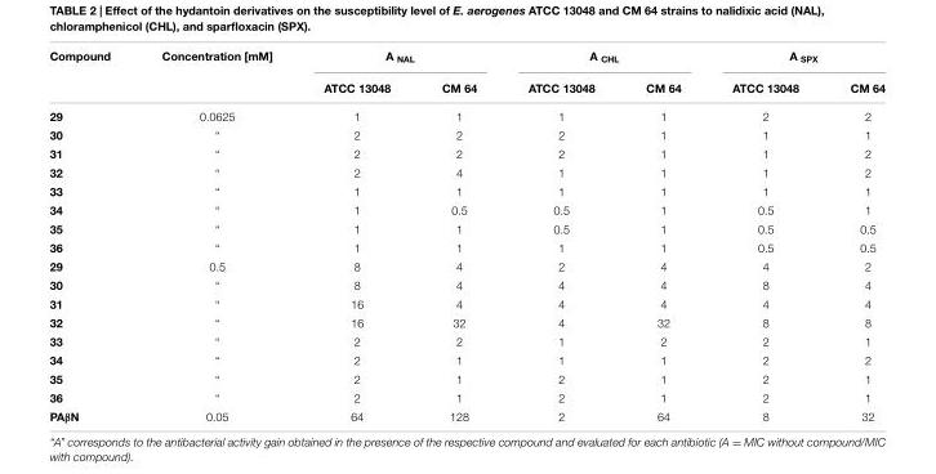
<table><thead><tr><td rowspan="2">Compound</td><td rowspan="2">Concentration [mM]</td><td colspan="2">A <sub>NAL</sub></td><td colspan="2">A <sub>CHL</sub></td><td colspan="2">A <sub>SPX</sub></td></tr><tr><td>ATCC 13048</td><td>CM 64</td><td>ATCC 13048</td><td>CM 64</td><td>ATCC 13048</td><td>CM 64</td></tr></thead><tbody><tr><td>29</td><td>0.0625</td><td>1</td><td>1</td><td>1</td><td>1</td><td>2</td><td>2</td></tr><tr><td>30</td><td>“</td><td>2</td><td>2</td><td>2</td><td>1</td><td>1</td><td>1</td></tr><tr><td>31</td><td>“</td><td>2</td><td>2</td><td>2</td><td>1</td><td>1</td><td>2</td></tr><tr><td>32</td><td>“</td><td>2</td><td>4</td><td>1</td><td>1</td><td>1</td><td>2</td></tr><tr><td>33</td><td>“</td><td>1</td><td>1</td><td>1</td><td>1</td><td>1</td><td>1</td></tr><tr><td>34</td><td>“</td><td>1</td><td>0.5</td><td>0.5</td><td>1</td><td>0.5</td><td>1</td></tr><tr><td>35</td><td>“</td><td>1</td><td>1</td><td>0.5</td><td>1</td><td>0.5</td><td>0.5</td></tr><tr><td>36</td><td>“</td><td>1</td><td>1</td><td>1</td><td>1</td><td>0.5</td><td>0.5</td></tr><tr><td>29</td><td>0.5</td><td>8</td><td>4</td><td>2</td><td>4</td><td>4</td><td>2</td></tr><tr><td>30</td><td>“</td><td>8</td><td>4</td><td>4</td><td>4</td><td>8</td><td>4</td></tr><tr><td>31</td><td>“</td><td>16</td><td>4</td><td>4</td><td>4</td><td>4</td><td>4</td></tr><tr><td>32</td><td>“</td><td>16</td><td>32</td><td>4</td><td>32</td><td>8</td><td>8</td></tr><tr><td>33</td><td>“</td><td>2</td><td>2</td><td>1</td><td>2</td><td>2</td><td>1</td></tr><tr><td>34</td><td>“</td><td>2</td><td>1</td><td>1</td><td>1</td><td>2</td><td>2</td></tr><tr><td>35</td><td>“</td><td>2</td><td>1</td><td>2</td><td>1</td><td>2</td><td>1</td></tr><tr><td>36</td><td>“</td><td>2</td><td>1</td><td>2</td><td>1</td><td>2</td><td>1</td></tr><tr><td>PAβN</td><td>0.05</td><td>64</td><td>128</td><td>2</td><td>64</td><td>8</td><td>32</td></tr></tbody></table>